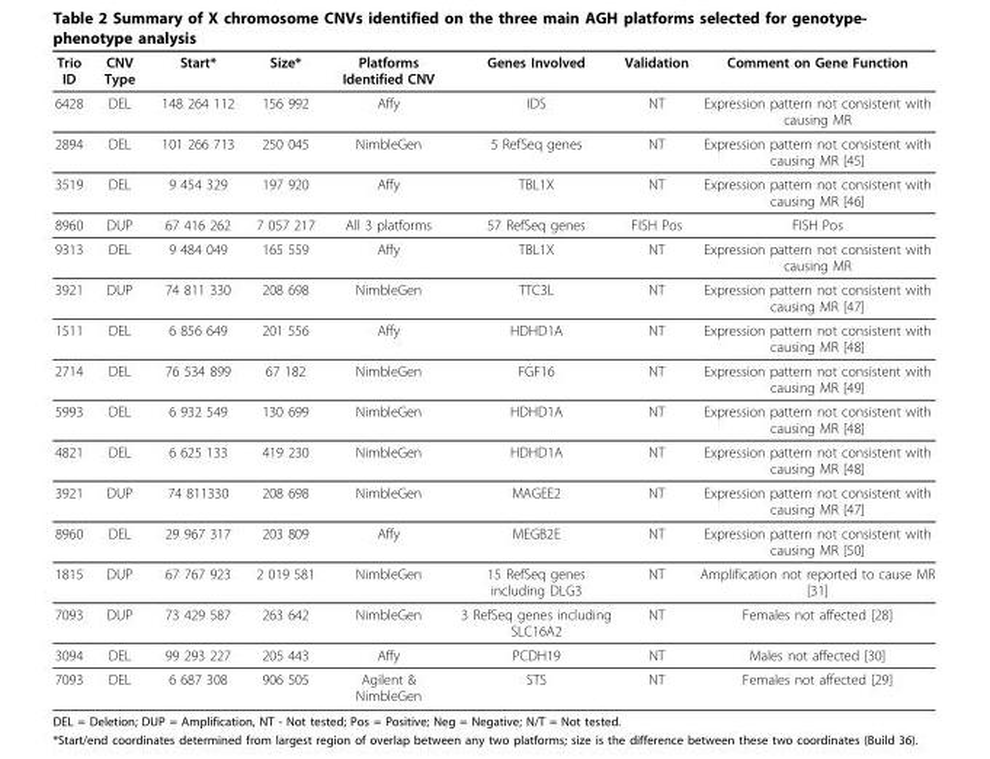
<table><thead><tr><td>Trio ID</td><td>CNV Type</td><td>Start*</td><td>Size*</td><td>Platforms Identified CNV</td><td>Genes Involved</td><td>Validation</td><td>Comment on Gene Function</td></tr></thead><tbody><tr><td>6428</td><td>DEL</td><td>148 264 112</td><td>156 992</td><td>Affy</td><td>IDS</td><td>NT</td><td>Expression pattern not consistent with causing MR</td></tr><tr><td>2894</td><td>DEL</td><td>101 266 713</td><td>250 045</td><td>NimbleGen</td><td>5 RefSeq genes</td><td>NT</td><td>Expression pattern not consistent with causing MR [45]</td></tr><tr><td>3519</td><td>DEL</td><td>9 454 329</td><td>197 920</td><td>Affy</td><td>TBL1X</td><td>NT</td><td>Expression pattern not consistent with causing MR [46]</td></tr><tr><td>8960</td><td>DUP</td><td>67 416 262</td><td>7 057 217</td><td>All 3 platforms</td><td>57 RefSeq genes</td><td>FISH Pos</td><td>FISH Pos</td></tr><tr><td>9313</td><td>DEL</td><td>9 484 049</td><td>165 559</td><td>Affy</td><td>TBL1X</td><td>NT</td><td>Expression pattern not consistent with causing MR</td></tr><tr><td>3921</td><td>DUP</td><td>74 811 330</td><td>208 698</td><td>NimbleGen</td><td>TTC3L</td><td>NT</td><td>Expression pattern not consistent with causing MR [47]</td></tr><tr><td>1511</td><td>DEL</td><td>6 856 649</td><td>201 556</td><td>Affy</td><td>HDHD1A</td><td>NT</td><td>Expression pattern not consistent with causing MR [48]</td></tr><tr><td>2714</td><td>DEL</td><td>76 534 899</td><td>67 182</td><td>NimbleGen</td><td>FGF16</td><td>NT</td><td>Expression pattern not consistent with causing MR [49]</td></tr><tr><td>5993</td><td>DEL</td><td>6 932 549</td><td>130 699</td><td>NimbleGen</td><td>HDHD1A</td><td>NT</td><td>Expression pattern not consistent with causing MR [48]</td></tr><tr><td>4821</td><td>DEL</td><td>6 625 133</td><td>419 230</td><td>NimbleGen</td><td>HDHD1A</td><td>NT</td><td>Expression pattern not consistent with causing MR [48]</td></tr><tr><td>3921</td><td>DUP</td><td>74 811330</td><td>208 698</td><td>NimbleGen</td><td>MAGEE2</td><td>NT</td><td>Expression pattern not consistent with causing MR [47]</td></tr><tr><td>8960</td><td>DEL</td><td>29 967 317</td><td>203 809</td><td>Affy</td><td>MEGB2E</td><td>NT</td><td>Expression pattern not consistent with causing MR [50]</td></tr><tr><td>1815</td><td>DUP</td><td>67 767 923</td><td>2 019 581</td><td>NimbleGen</td><td>15 RefSeq genes including DLG3</td><td>NT</td><td>Amplification not reported to cause MR [31]</td></tr><tr><td>7093</td><td>DUP</td><td>73 429 587</td><td>263 642</td><td>NimbleGen</td><td>3 RefSeq genes including SLC16A2</td><td>NT</td><td>Females not affected [28]</td></tr><tr><td>3094</td><td>DEL</td><td>99 293 227</td><td>205 443</td><td>Affy</td><td>PCDH19</td><td>NT</td><td>Males not affected [30]</td></tr><tr><td>7093</td><td>DEL</td><td>6 687 308</td><td>906 505</td><td>Agilent &amp; NimbleGen</td><td>STS</td><td>NT</td><td>Females not affected [29]</td></tr></tbody></table>